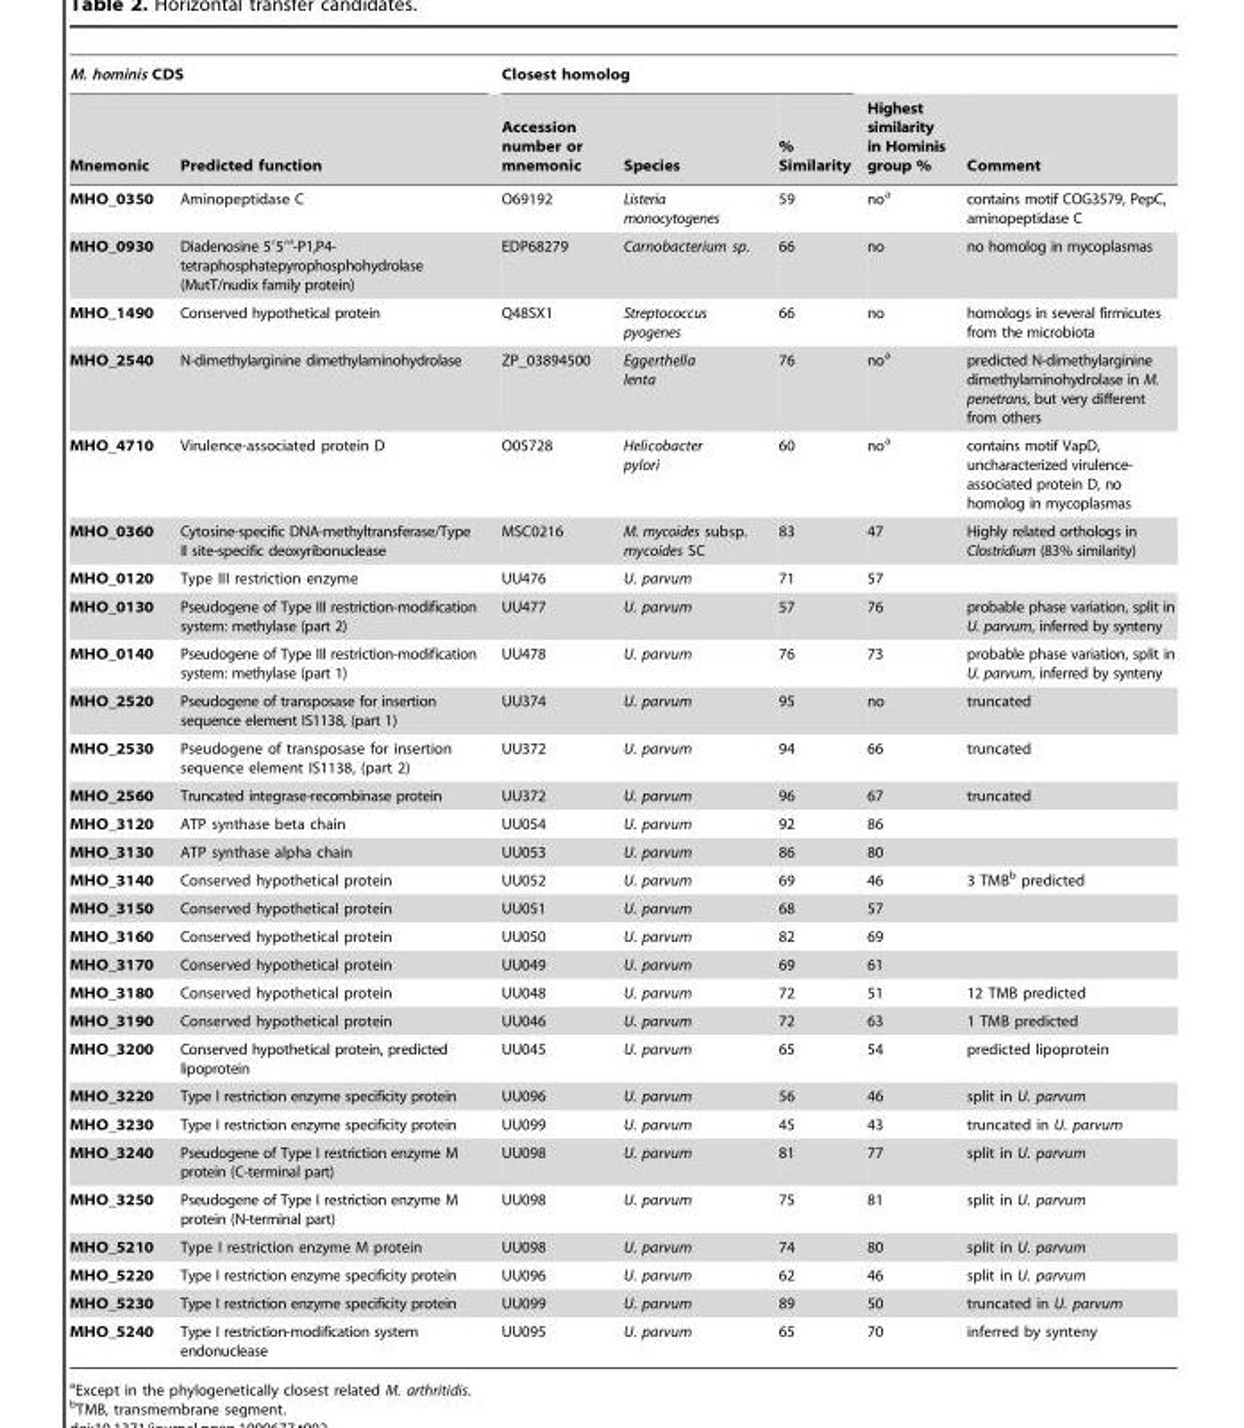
<table><thead><tr><td colspan="2">M. hominis CDS</td><td colspan="3">Closest homolog</td><td rowspan="2">Highest similarity in Hominis group %</td><td rowspan="2">Comment</td></tr><tr><td>Mnemonic</td><td>Predicted function</td><td>Accession number or mnemonic</td><td>Species</td><td>% Similarity</td></tr></thead><tbody><tr><td>MHO_0350</td><td>Aminopeptidase C</td><td>O69192</td><td>Listeria monocytogenes</td><td>59</td><td>no<sup>a</sup></td><td>contains motif COG3579, PepC, aminopeptidase C</td></tr><tr><td>MHO_0930</td><td>Diadenosine 5′5′″-P1,P4- tetraphosphatepyrophosphohydrolase (MutT/nudix family protein)</td><td>EDP68279</td><td>Carnobacterium sp.</td><td>66</td><td>no</td><td>no homolog in mycoplasmas</td></tr><tr><td>MHO_1490</td><td>Conserved hypothetical protein</td><td>Q48SX1</td><td>Streptococcus pyogenes</td><td>66</td><td>no</td><td>homologs in several firmicutes from the microbiota</td></tr><tr><td>MHO_2540</td><td>N-dimethylarginine dimethylaminohydrolase</td><td>ZP_03894500</td><td>Eggerthella lenta</td><td>76</td><td>no<sup>a</sup></td><td>predicted N-dimethylarginine dimethylaminohydrolase in M. penetrans, but very different from others</td></tr><tr><td>MHO_4710</td><td>Virulence-associated protein D</td><td>O05728</td><td>Helicobacter pylori</td><td>60</td><td>no<sup>a</sup></td><td>contains motif VapD, uncharacterized virulence- associated protein D, no homolog in mycoplasmas</td></tr><tr><td>MHO_0360</td><td>Cytosine-specific DNA-methyltransferase/Type II site-specific deoxyribonuclease</td><td>MSC0216</td><td>M. mycoides subsp. mycoides SC</td><td>83</td><td>47</td><td>Highly related orthologs in Clostridium (83% similarity)</td></tr><tr><td>MHO_0120</td><td>Type III restriction enzyme</td><td>UU476</td><td>U. parvum</td><td>71</td><td>57</td><td></td></tr><tr><td>MHO_0130</td><td>Pseudogene of Type III restriction-modification system: methylase (part 2)</td><td>UU477</td><td>U. parvum</td><td>57</td><td>76</td><td>probable phase variation, split in U. parvum, inferred by synteny</td></tr><tr><td>MHO_0140</td><td>Pseudogene of Type III restriction-modification system: methylase (part 1)</td><td>UU478</td><td>U. parvum</td><td>76</td><td>73</td><td>probable phase variation, split in U. parvum, inferred by synteny</td></tr><tr><td>MHO_2520</td><td>Pseudogene of transposase for insertion sequence element IS1138, (part 1)</td><td>UU374</td><td>U. parvum</td><td>95</td><td>no</td><td>truncated</td></tr><tr><td>MHO_2530</td><td>Pseudogene of transposase for insertion sequence element IS1138, (part 2)</td><td>UU372</td><td>U. parvum</td><td>94</td><td>66</td><td>truncated</td></tr><tr><td>MHO_2560</td><td>Truncated integrase-recombinase protein</td><td>UU372</td><td>U. parvum</td><td>96</td><td>67</td><td>truncated</td></tr><tr><td>MHO_3120</td><td>ATP synthase beta chain</td><td>UU054</td><td>U. parvum</td><td>92</td><td>86</td><td></td></tr><tr><td>MHO_3130</td><td>ATP synthase alpha chain</td><td>UU053</td><td>U. parvum</td><td>86</td><td>80</td><td></td></tr><tr><td>MHO_3140</td><td>Conserved hypothetical protein</td><td>UU052</td><td>U. parvum</td><td>69</td><td>46</td><td>3 TMB<sup>b</sup> predicted</td></tr><tr><td>MHO_3150</td><td>Conserved hypothetical protein</td><td>UU051</td><td>U. parvum</td><td>68</td><td>57</td><td></td></tr><tr><td>MHO_3160</td><td>Conserved hypothetical protein</td><td>UU050</td><td>U. parvum</td><td>82</td><td>69</td><td></td></tr><tr><td>MHO_3170</td><td>Conserved hypothetical protein</td><td>UU049</td><td>U. parvum</td><td>69</td><td>61</td><td></td></tr><tr><td>MHO_3180</td><td>Conserved hypothetical protein</td><td>UU048</td><td>U. parvum</td><td>72</td><td>51</td><td>12 TMB predicted</td></tr><tr><td>MHO_3190</td><td>Conserved hypothetical protein</td><td>UU046</td><td>U. parvum</td><td>72</td><td>63</td><td>1 TMB predicted</td></tr><tr><td>MHO_3200</td><td>Conserved hypothetical protein, predicted lipoprotein</td><td>UU045</td><td>U. parvum</td><td>65</td><td>54</td><td>predicted lipoprotein</td></tr><tr><td>MHO_3220</td><td>Type I restriction enzyme specificity protein</td><td>UU096</td><td>U. parvum</td><td>56</td><td>46</td><td>split in U. parvum</td></tr><tr><td>MHO_3230</td><td>Type I restriction enzyme specificity protein</td><td>UU099</td><td>U. parvum</td><td>45</td><td>43</td><td>truncated in U. parvum</td></tr><tr><td>MHO_3240</td><td>Pseudogene of Type I restriction enzyme M protein (C-terminal part)</td><td>UU098</td><td>U. parvum</td><td>81</td><td>77</td><td>split in U. parvum</td></tr><tr><td>MHO_3250</td><td>Pseudogene of Type I restriction enzyme M protein (N-terminal part)</td><td>UU098</td><td>U. parvum</td><td>75</td><td>81</td><td>split in U. parvum</td></tr><tr><td>MHO_5210</td><td>Type I restriction enzyme M protein</td><td>UU098</td><td>U. parvum</td><td>74</td><td>80</td><td>split in U. parvum</td></tr><tr><td>MHO_5220</td><td>Type I restriction enzyme specificity protein</td><td>UU096</td><td>U. parvum</td><td>62</td><td>46</td><td>split in U. parvum</td></tr><tr><td>MHO_5230</td><td>Type I restriction enzyme specificity protein</td><td>UU099</td><td>U. parvum</td><td>89</td><td>50</td><td>truncated in U. parvum</td></tr><tr><td>MHO_5240</td><td>Type I restriction-modification system endonuclease</td><td>UU095</td><td>U. parvum</td><td>65</td><td>70</td><td>inferred by synteny</td></tr></tbody></table>